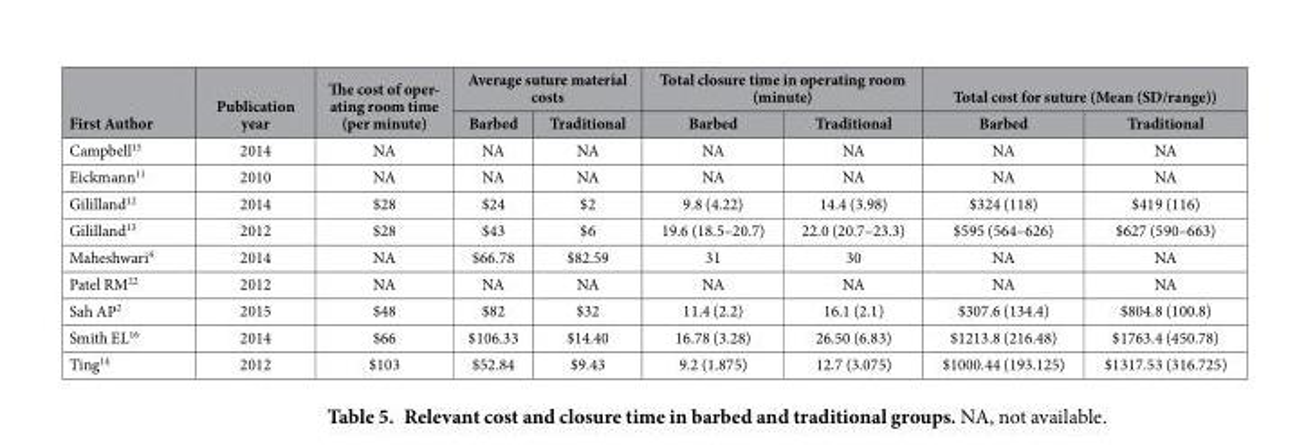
<table><thead><tr><td rowspan="2">First Author</td><td rowspan="2">Publication year</td><td rowspan="2">The cost of oper- ating room time (per minute)</td><td colspan="2">Average suture material costs</td><td colspan="2">Total closure time in operating room (minute)</td><td colspan="2">Total cost for suture (Mean (SD/range))</td></tr><tr><td>Barbed</td><td>Traditional</td><td>Barbed</td><td>Traditional</td><td>Barbed</td><td>Traditional</td></tr></thead><tbody><tr><td>Campbell<sup>15</sup></td><td>2014</td><td>NA</td><td>NA</td><td>NA</td><td>NA</td><td>NA</td><td>NA</td><td>NA</td></tr><tr><td>Eickmann<sup>11</sup></td><td>2010</td><td>NA</td><td>NA</td><td>NA</td><td>NA</td><td>NA</td><td>NA</td><td>NA</td></tr><tr><td>Gililland<sup>12</sup></td><td>2014</td><td>$28</td><td>$24</td><td>$2</td><td>9.8 (4.22)</td><td>14.4 (3.98)</td><td>$324 (118)</td><td>$419 (116)</td></tr><tr><td>Gililland<sup>13</sup></td><td>2012</td><td>$28</td><td>$43</td><td>$6</td><td>19.6 (18.5–20.7)</td><td>22.0 (20.7–23.3)</td><td>$595 (564–626)</td><td>$627 (590–663)</td></tr><tr><td>Maheshwari<sup>4</sup></td><td>2014</td><td>NA</td><td>$66.78</td><td>$82.59</td><td>31</td><td>30</td><td>NA</td><td>NA</td></tr><tr><td>Patel RM<sup>22</sup></td><td>2012</td><td>NA</td><td>NA</td><td>NA</td><td>NA</td><td>NA</td><td>NA</td><td>NA</td></tr><tr><td>Sah AP<sup>2</sup></td><td>2015</td><td>$48</td><td>$82</td><td>$32</td><td>11.4 (2.2)</td><td>16.1 (2.1)</td><td>$307.6 (134.4)</td><td>$804.8 (100.8)</td></tr><tr><td>Smith EL<sup>16</sup></td><td>2014</td><td>$66</td><td>$106.33</td><td>$14.40</td><td>16.78 (3.28)</td><td>26.50 (6.83)</td><td>$1213.8 (216.48)</td><td>$1763.4 (450.78)</td></tr><tr><td>Ting<sup>14</sup></td><td>2012</td><td>$103</td><td>$52.84</td><td>$9.43</td><td>9.2 (1.875)</td><td>12.7 (3.075)</td><td>$1000.44 (193.125)</td><td>$1317.53 (316.725)</td></tr></tbody></table>